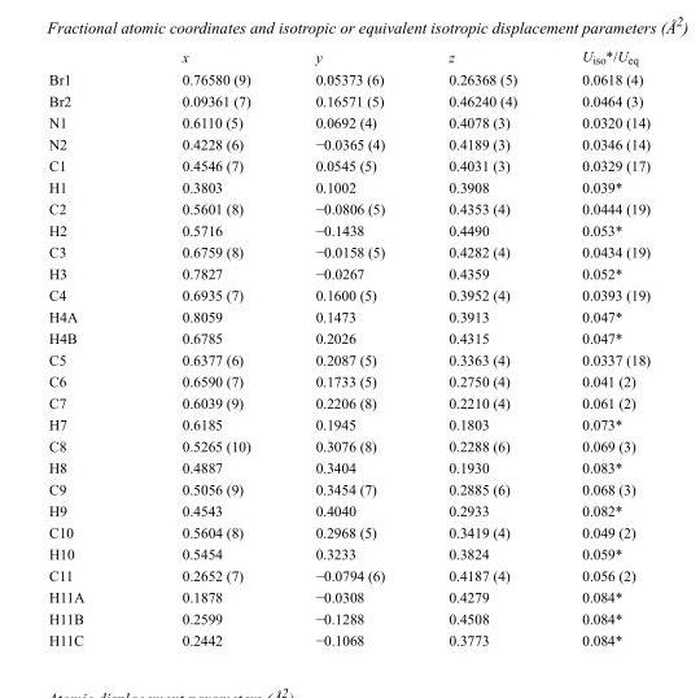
<table><thead><tr><td></td><td>x</td><td>y</td><td>z</td><td>U<sub>iso</sub>*/U<sub>eq</sub></td></tr></thead><tbody><tr><td>Br1</td><td>0.76580 (9)</td><td>0.05373 (6)</td><td>0.26368 (5)</td><td>0.0618 (4)</td></tr><tr><td>Br2</td><td>0.09361 (7)</td><td>0.16571 (5)</td><td>0.46240 (4)</td><td>0.0464 (3)</td></tr><tr><td>N1</td><td>0.6110 (5)</td><td>0.0692 (4)</td><td>0.4078 (3)</td><td>0.0320 (14)</td></tr><tr><td>N2</td><td>0.4228 (6)</td><td>−0.0365 (4)</td><td>0.4189 (3)</td><td>0.0346 (14)</td></tr><tr><td>C1</td><td>0.4546 (7)</td><td>0.0545 (5)</td><td>0.4031 (3)</td><td>0.0329 (17)</td></tr><tr><td>H1</td><td>0.3803</td><td>0.1002</td><td>0.3908</td><td>0.039*</td></tr><tr><td>C2</td><td>0.5601 (8)</td><td>−0.0806 (5)</td><td>0.4353 (4)</td><td>0.0444 (19)</td></tr><tr><td>H2</td><td>0.5716</td><td>−0.1438</td><td>0.4490</td><td>0.053*</td></tr><tr><td>C3</td><td>0.6759 (8)</td><td>−0.0158 (5)</td><td>0.4282 (4)</td><td>0.0434 (19)</td></tr><tr><td>H3</td><td>0.7827</td><td>−0.0267</td><td>0.4359</td><td>0.052*</td></tr><tr><td>C4</td><td>0.6935 (7)</td><td>0.1600 (5)</td><td>0.3952 (4)</td><td>0.0393 (19)</td></tr><tr><td>H4A</td><td>0.8059</td><td>0.1473</td><td>0.3913</td><td>0.047*</td></tr><tr><td>H4B</td><td>0.6785</td><td>0.2026</td><td>0.4315</td><td>0.047*</td></tr><tr><td>C5</td><td>0.6377 (6)</td><td>0.2087 (5)</td><td>0.3363 (4)</td><td>0.0337 (18)</td></tr><tr><td>C6</td><td>0.6590 (7)</td><td>0.1733 (5)</td><td>0.2750 (4)</td><td>0.041 (2)</td></tr><tr><td>C7</td><td>0.6039 (9)</td><td>0.2206 (8)</td><td>0.2210 (4)</td><td>0.061 (2)</td></tr><tr><td>H7</td><td>0.6185</td><td>0.1945</td><td>0.1803</td><td>0.073*</td></tr><tr><td>C8</td><td>0.5265 (10)</td><td>0.3076 (8)</td><td>0.2288 (6)</td><td>0.069 (3)</td></tr><tr><td>H8</td><td>0.4887</td><td>0.3404</td><td>0.1930</td><td>0.083*</td></tr><tr><td>C9</td><td>0.5056 (9)</td><td>0.3454 (7)</td><td>0.2885 (6)</td><td>0.068 (3)</td></tr><tr><td>H9</td><td>0.4543</td><td>0.4040</td><td>0.2933</td><td>0.082*</td></tr><tr><td>C10</td><td>0.5604 (8)</td><td>0.2968 (5)</td><td>0.3419 (4)</td><td>0.049 (2)</td></tr><tr><td>H10</td><td>0.5454</td><td>0.3233</td><td>0.3824</td><td>0.059*</td></tr><tr><td>C11</td><td>0.2652 (7)</td><td>−0.0794 (6)</td><td>0.4187 (4)</td><td>0.056 (2)</td></tr><tr><td>H11A</td><td>0.1878</td><td>−0.0308</td><td>0.4279</td><td>0.084*</td></tr><tr><td>H11B</td><td>0.2599</td><td>−0.1288</td><td>0.4508</td><td>0.084*</td></tr><tr><td>H11C</td><td>0.2442</td><td>−0.1068</td><td>0.3773</td><td>0.084*</td></tr></tbody></table>